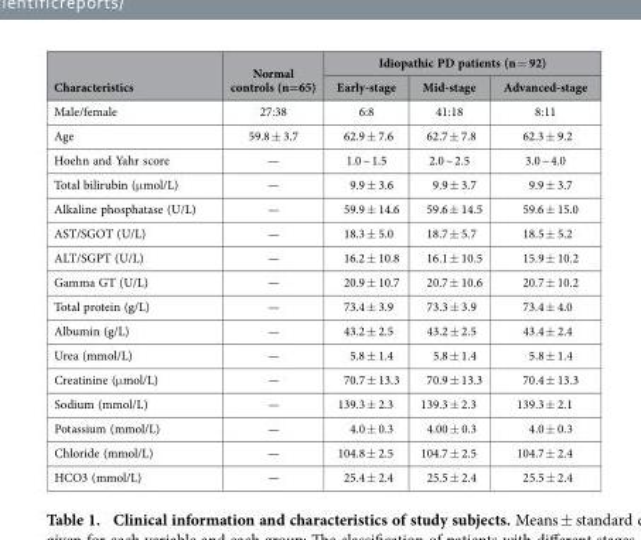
<table><thead><tr><td rowspan="2">Characteristics</td><td rowspan="2">Normal controls (n=65)</td><td colspan="3">Idiopathic PD patients (n = 92)</td></tr><tr><td>Early-stage</td><td>Mid-stage</td><td>Advanced-stage</td></tr></thead><tbody><tr><td>Male/female</td><td>27:38</td><td>6:8</td><td>41:18</td><td>8:11</td></tr><tr><td>Age</td><td>59.8 ± 3.7</td><td>62.9 ± 7.6</td><td>62.7 ± 7.8</td><td>62.3 ± 9.2</td></tr><tr><td>Hoehn and Yahr score</td><td>—</td><td>1.0 ~ 1.5</td><td>2.0 ~ 2.5</td><td>3.0 ~ 4.0</td></tr><tr><td>Total bilirubin (μ mol/L)</td><td>—</td><td>9.9 ± 3.6</td><td>9.9 ± 3.7</td><td>9.9 ± 3.7</td></tr><tr><td>Alkaline phosphatase (U/L)</td><td>—</td><td>59.9 ± 14.6</td><td>59.6 ± 14.5</td><td>59.6 ± 15.0</td></tr><tr><td>AST/SGOT (U/L)</td><td>—</td><td>18.3 ± 5.0</td><td>18.7 ± 5.7</td><td>18.5 ± 5.2</td></tr><tr><td>ALT/SGPT (U/L)</td><td>—</td><td>16.2 ± 10.8</td><td>16.1 ± 10.5</td><td>15.9 ± 10.2</td></tr><tr><td>Gamma GT (U/L)</td><td>—</td><td>20.9 ± 10.7</td><td>20.7 ± 10.6</td><td>20.7 ± 10.2</td></tr><tr><td>Total protein (g/L)</td><td>—</td><td>73.4 ± 3.9</td><td>73.3 ± 3.9</td><td>73.4 ± 4.0</td></tr><tr><td>Albumin (g/L)</td><td>—</td><td>43.2 ± 2.5</td><td>43.2 ± 2.5</td><td>43.4 ± 2.4</td></tr><tr><td>Urea (mmol/L)</td><td>—</td><td>5.8 ± 1.4</td><td>5.8 ± 1.4</td><td>5.8 ± 1.4</td></tr><tr><td>Creatinine (μ mol/L)</td><td>—</td><td>70.7 ± 13.3</td><td>70.9 ± 13.3</td><td>70.4 ± 13.3</td></tr><tr><td>Sodium (mmol/L)</td><td>—</td><td>139.3 ± 2.3</td><td>139.3 ± 2.3</td><td>139.3 ± 2.1</td></tr><tr><td>Potassium (mmol/L)</td><td>—</td><td>4.0 ± 0.3</td><td>4.00 ± 0.3</td><td>4.0 ± 0.3</td></tr><tr><td>Chloride (mmol/L)</td><td>—</td><td>104.8 ± 2.5</td><td>104.7 ± 2.5</td><td>104.7 ± 2.4</td></tr><tr><td>HCO3 (mmol/L)</td><td>—</td><td>25.4 ± 2.4</td><td>25.5 ± 2.4</td><td>25.5 ± 2.4</td></tr></tbody></table>